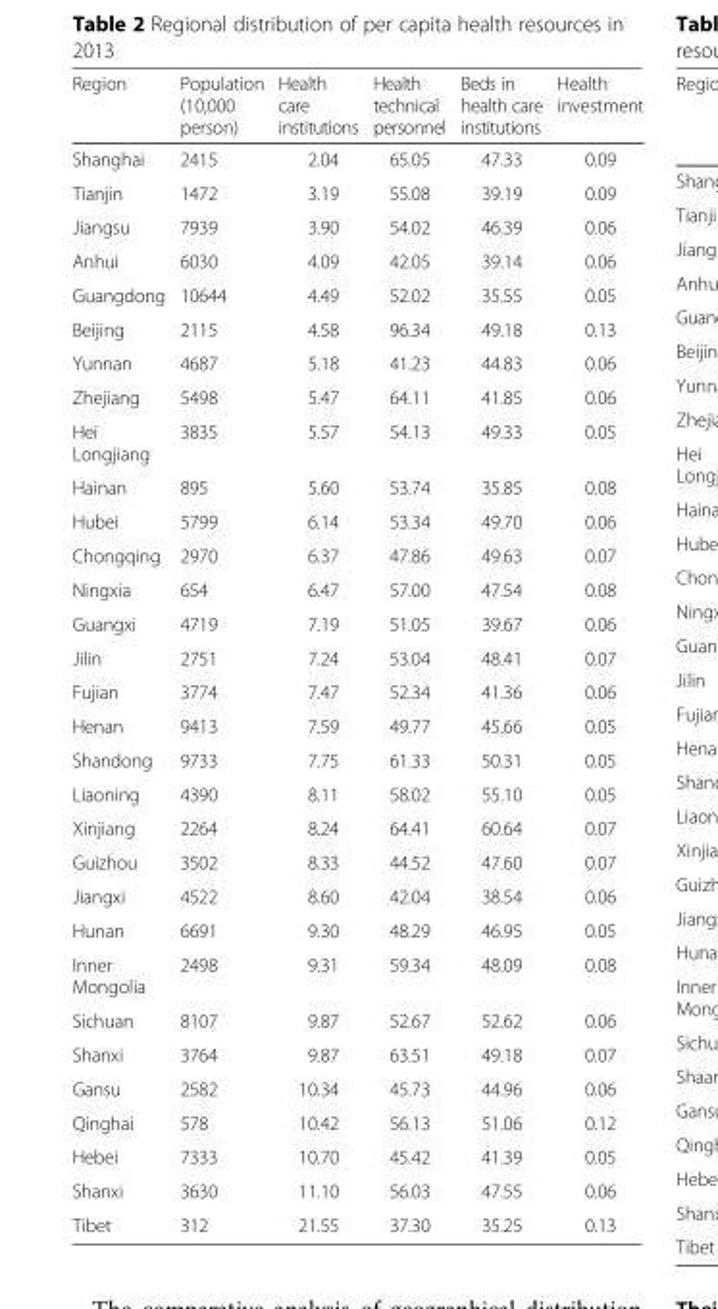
<table><thead><tr><td>Region</td><td>Population (10,000 person)</td><td>Health care institutions</td><td>Health technical personnel</td><td>Beds in health care institutions</td><td>Health investment</td></tr></thead><tbody><tr><td>Shanghai</td><td>2415</td><td>2.04</td><td>65.05</td><td>47.33</td><td>0.09</td></tr><tr><td>Tianjin</td><td>1472</td><td>3.19</td><td>55.08</td><td>39.19</td><td>0.09</td></tr><tr><td>Jiangsu</td><td>7939</td><td>3.90</td><td>54.02</td><td>46.39</td><td>0.06</td></tr><tr><td>Anhui</td><td>6030</td><td>4.09</td><td>42.05</td><td>39.14</td><td>0.06</td></tr><tr><td>Guangdong</td><td>10644</td><td>4.49</td><td>52.02</td><td>35.55</td><td>0.05</td></tr><tr><td>Beijing</td><td>2115</td><td>4.58</td><td>96.34</td><td>49.18</td><td>0.13</td></tr><tr><td>Yunnan</td><td>4687</td><td>5.18</td><td>41.23</td><td>44.83</td><td>0.06</td></tr><tr><td>Zhejiang</td><td>5498</td><td>5.47</td><td>64.11</td><td>41.85</td><td>0.06</td></tr><tr><td>Hei Longjiang</td><td>3835</td><td>5.57</td><td>54.13</td><td>49.33</td><td>0.05</td></tr><tr><td>Hainan</td><td>895</td><td>5.60</td><td>53.74</td><td>35.85</td><td>0.08</td></tr><tr><td>Hubei</td><td>5799</td><td>6.14</td><td>53.34</td><td>49.70</td><td>0.06</td></tr><tr><td>Chongqing</td><td>2970</td><td>6.37</td><td>47.86</td><td>49.63</td><td>0.07</td></tr><tr><td>Ningxia</td><td>654</td><td>6.47</td><td>57.00</td><td>47.54</td><td>0.08</td></tr><tr><td>Guangxi</td><td>4719</td><td>7.19</td><td>51.05</td><td>39.67</td><td>0.06</td></tr><tr><td>Jilin</td><td>2751</td><td>7.24</td><td>53.04</td><td>48.41</td><td>0.07</td></tr><tr><td>Fujian</td><td>3774</td><td>7.47</td><td>52.34</td><td>41.36</td><td>0.06</td></tr><tr><td>Henan</td><td>9413</td><td>7.59</td><td>49.77</td><td>45.66</td><td>0.05</td></tr><tr><td>Shandong</td><td>9733</td><td>7.75</td><td>61.33</td><td>50.31</td><td>0.05</td></tr><tr><td>Liaoning</td><td>4390</td><td>8.11</td><td>58.02</td><td>55.10</td><td>0.05</td></tr><tr><td>Xinjiang</td><td>2264</td><td>8.24</td><td>64.41</td><td>60.64</td><td>0.07</td></tr><tr><td>Guizhou</td><td>3502</td><td>8.33</td><td>44.52</td><td>47.60</td><td>0.07</td></tr><tr><td>Jiangxi</td><td>4522</td><td>8.60</td><td>42.04</td><td>38.54</td><td>0.06</td></tr><tr><td>Hunan</td><td>6691</td><td>9.30</td><td>48.29</td><td>46.95</td><td>0.05</td></tr><tr><td>Inner Mongolia</td><td>2498</td><td>9.31</td><td>59.34</td><td>48.09</td><td>0.08</td></tr><tr><td>Sichuan</td><td>8107</td><td>9.87</td><td>52.67</td><td>52.62</td><td>0.06</td></tr><tr><td>Shanxi</td><td>3764</td><td>9.87</td><td>63.51</td><td>49.18</td><td>0.07</td></tr><tr><td>Gansu</td><td>2582</td><td>10.34</td><td>45.73</td><td>44.96</td><td>0.06</td></tr><tr><td>Qinghai</td><td>578</td><td>10.42</td><td>56.13</td><td>51.06</td><td>0.12</td></tr><tr><td>Hebei</td><td>7333</td><td>10.70</td><td>45.42</td><td>41.39</td><td>0.05</td></tr><tr><td>Shanxi</td><td>3630</td><td>11.10</td><td>56.03</td><td>47.55</td><td>0.06</td></tr><tr><td>Tibet</td><td>312</td><td>21.55</td><td>37.30</td><td>35.25</td><td>0.13</td></tr></tbody></table>